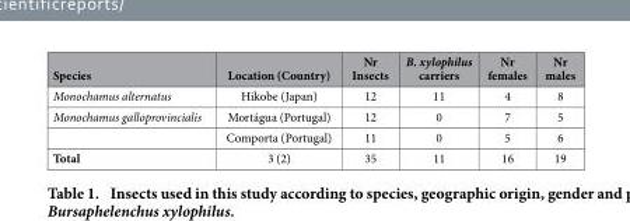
<table><thead><tr><td>Species</td><td>Location (Country)</td><td>Nr Insects</td><td>B. xylophilus carriers</td><td>Nr females</td><td>Nr males</td></tr></thead><tbody><tr><td>Monochamus alternatus</td><td>Hikobe (Japan)</td><td>12</td><td>11</td><td>4</td><td>8</td></tr><tr><td rowspan="2">Monochamus galloprovincialis</td><td>Mortágua (Portugal)</td><td>12</td><td>0</td><td>7</td><td>5</td></tr><tr><td>Comporta (Portugal)</td><td>11</td><td>0</td><td>5</td><td>6</td></tr><tr><td>Total</td><td>3 (2)</td><td>35</td><td>11</td><td>16</td><td>19</td></tr></tbody></table>